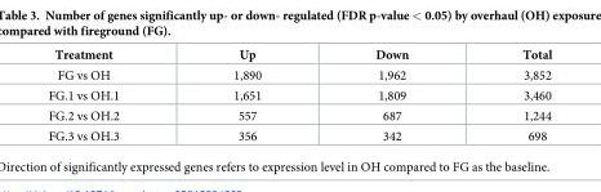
<table><thead><tr><td>Treatment</td><td>Up</td><td>Down</td><td>Total</td></tr></thead><tbody><tr><td>FG vs OH</td><td>1,890</td><td>1,962</td><td>3,852</td></tr><tr><td>FG.1 vs OH.1</td><td>1,651</td><td>1,809</td><td>3,460</td></tr><tr><td>FG.2 vs OH.2</td><td>557</td><td>687</td><td>1,244</td></tr><tr><td>FG.3 vs OH.3</td><td>356</td><td>342</td><td>698</td></tr></tbody></table>